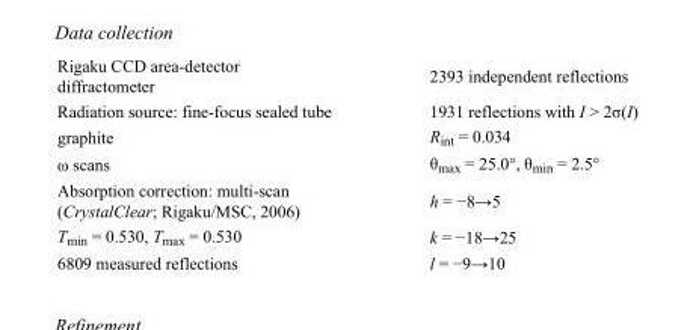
<table><tbody><tr><td>Rigaku CCD area-detector diffractometer</td><td>2393 independent reflections</td></tr><tr><td>Radiation source: fine-focus sealed tube</td><td>1931 reflections with I &gt; 2σ(I)</td></tr><tr><td>graphite</td><td>R<sub>int</sub> = 0.034</td></tr><tr><td>ω scans</td><td>θ<sub>max</sub> = 25.0°, θ<sub>min</sub> = 2.5°</td></tr><tr><td>Absorption correction: multi-scan (CrystalClear; Rigaku/MSC, 2006)</td><td>h = −8→5</td></tr><tr><td>T<sub>min</sub> = 0.530, T<sub>max</sub> = 0.530</td><td>k = −18→25</td></tr><tr><td>6809 measured reflections</td><td>l = −9→10</td></tr></tbody></table>